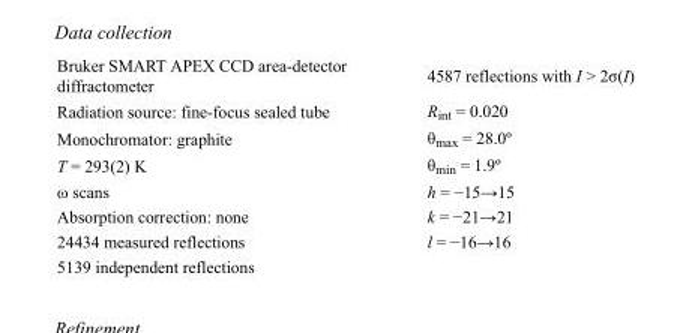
<table><tbody><tr><td>Bruker SMART APEX CCD area-detector diffractometer</td><td>4587 reflections with I &gt; 2σ(I)</td></tr><tr><td>Radiation source: fine-focus sealed tube</td><td>R<sub>int</sub> = 0.020</td></tr><tr><td>Monochromator: graphite</td><td>θ<sub>max</sub> = 28.0º</td></tr><tr><td>T = 293(2) K</td><td>θ<sub>min</sub> = 1.9º</td></tr><tr><td>ω scans</td><td>h = −15→15</td></tr><tr><td>Absorption correction: none</td><td>k = −21→21</td></tr><tr><td>24434 measured reflections</td><td>l = −16→16</td></tr><tr><td>5139 independent reflections</td><td></td></tr></tbody></table>